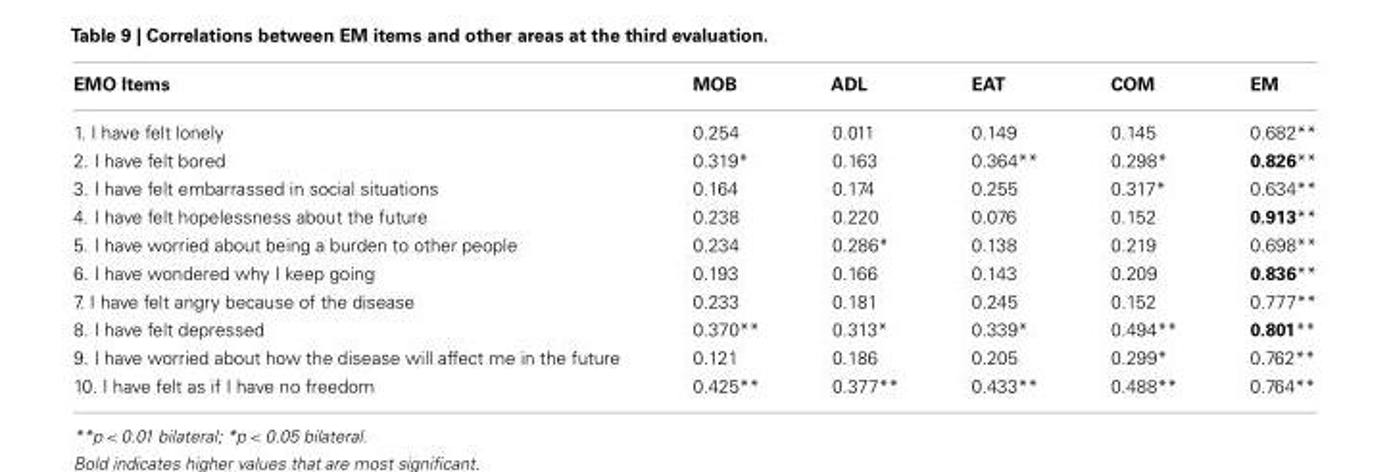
<table><thead><tr><td>EMO Items</td><td>MOB</td><td>ADL</td><td>EAT</td><td>COM</td><td>EM</td></tr></thead><tbody><tr><td>1. I have felt lonely</td><td>0.254</td><td>0.011</td><td>0.149</td><td>0.145</td><td>0.682**</td></tr><tr><td>2. I have felt bored</td><td>0.319*</td><td>0.163</td><td>0.364**</td><td>0.298*</td><td>0.826**</td></tr><tr><td>3. I have felt embarrassed in social situations</td><td>0.164</td><td>0.174</td><td>0.255</td><td>0.317*</td><td>0.634**</td></tr><tr><td>4. I have felt hopelessness about the future</td><td>0.238</td><td>0.220</td><td>0.076</td><td>0.152</td><td>0.913**</td></tr><tr><td>5. I have worried about being a burden to other people</td><td>0.234</td><td>0.286*</td><td>0.138</td><td>0.219</td><td>0.698**</td></tr><tr><td>6. I have wondered why I keep going</td><td>0.193</td><td>0.166</td><td>0.143</td><td>0.209</td><td>0.836**</td></tr><tr><td>7. I have felt angry because of the disease</td><td>0.233</td><td>0.181</td><td>0.245</td><td>0.152</td><td>0.777**</td></tr><tr><td>8. I have felt depressed</td><td>0.370**</td><td>0.313*</td><td>0.339*</td><td>0.494**</td><td>0.801**</td></tr><tr><td>9. I have worried about how the disease will affect me in the future</td><td>0.121</td><td>0.186</td><td>0.205</td><td>0.299*</td><td>0.762**</td></tr><tr><td>10. I have felt as if I have no freedom</td><td>0.425**</td><td>0.377**</td><td>0.433**</td><td>0.488**</td><td>0.764**</td></tr></tbody></table>